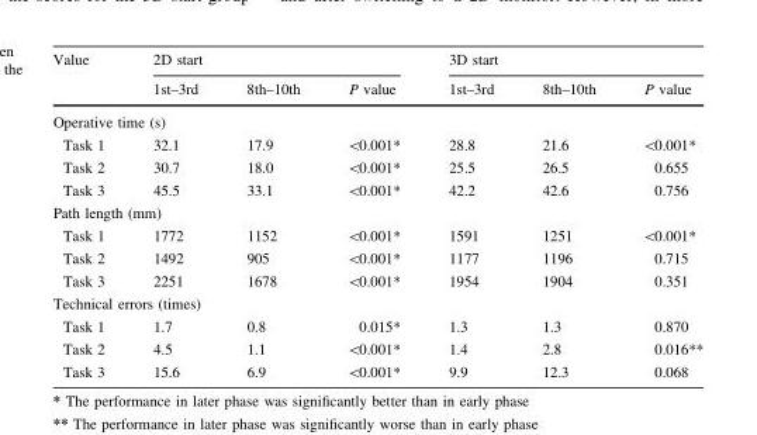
<table><thead><tr><td rowspan="2">Value</td><td colspan="3">2D start</td><td colspan="3">3D start</td></tr><tr><td>1st–3rd</td><td>8th–10th</td><td>P value</td><td>1st–3rd</td><td>8th–10th</td><td>P value</td></tr></thead><tbody><tr><td colspan="7">Operative time (s)</td></tr><tr><td>Task 1</td><td>32.1</td><td>17.9</td><td>&lt;0.001*</td><td>28.8</td><td>21.6</td><td>&lt;0.001*</td></tr><tr><td>Task 2</td><td>30.7</td><td>18.0</td><td>&lt;0.001*</td><td>25.5</td><td>26.5</td><td>0.655</td></tr><tr><td>Task 3</td><td>45.5</td><td>33.1</td><td>&lt;0.001*</td><td>42.2</td><td>42.6</td><td>0.756</td></tr><tr><td colspan="7">Path length (mm)</td></tr><tr><td>Task 1</td><td>1772</td><td>1152</td><td>&lt;0.001*</td><td>1591</td><td>1251</td><td>&lt;0.001*</td></tr><tr><td>Task 2</td><td>1492</td><td>905</td><td>&lt;0.001*</td><td>1177</td><td>1196</td><td>0.715</td></tr><tr><td>Task 3</td><td>2251</td><td>1678</td><td>&lt;0.001*</td><td>1954</td><td>1904</td><td>0.351</td></tr><tr><td colspan="7">Technical errors (times)</td></tr><tr><td>Task 1</td><td>1.7</td><td>0.8</td><td>0.015*</td><td>1.3</td><td>1.3</td><td>0.870</td></tr><tr><td>Task 2</td><td>4.5</td><td>1.1</td><td>&lt;0.001*</td><td>1.4</td><td>2.8</td><td>0.016**</td></tr><tr><td>Task 3</td><td>15.6</td><td>6.9</td><td>&lt;0.001*</td><td>9.9</td><td>12.3</td><td>0.068</td></tr></tbody></table>